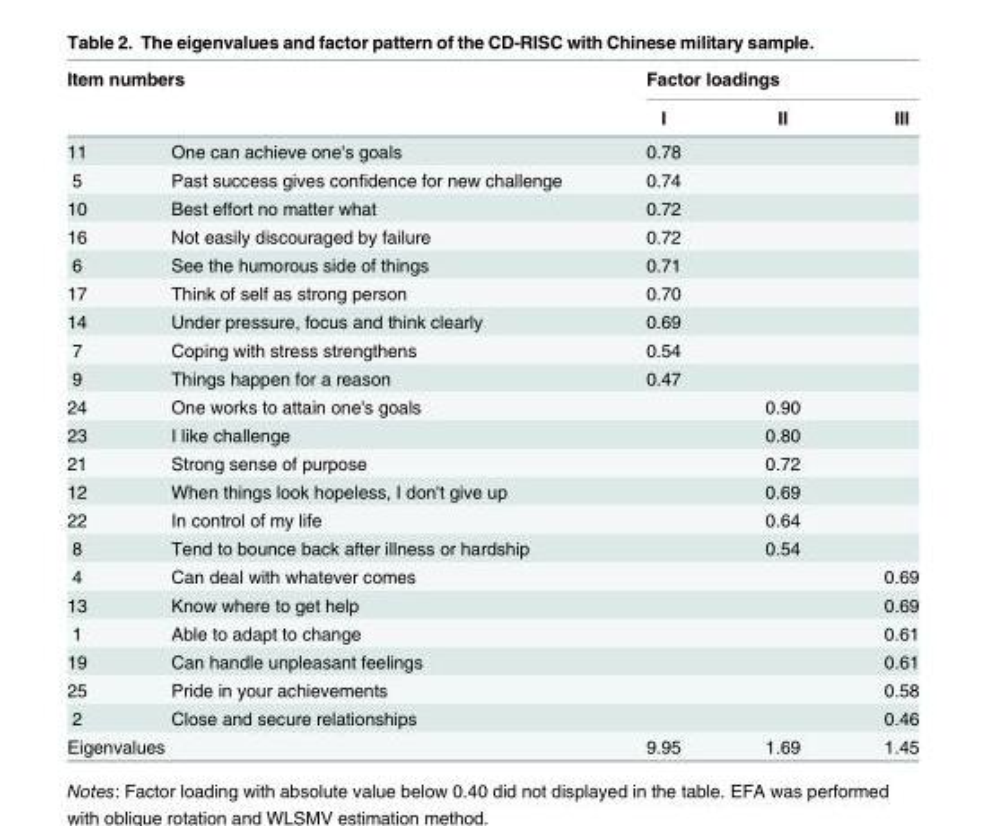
<table><thead><tr><td rowspan="2" colspan="2">Item numbers</td><td colspan="3">Factor loadings</td></tr><tr><td rowspan="2">I 0.78</td><td rowspan="2">II</td><td rowspan="2">III</td></tr><tr><td>11</td><td>One can achieve one&#x27;s goals</td></tr></thead><tbody><tr><td>5</td><td>Past success gives confidence for new challenge</td><td>0.74</td><td></td><td></td></tr><tr><td>10</td><td>Best effort no matter what</td><td>0.72</td><td></td><td></td></tr><tr><td>16</td><td>Not easily discouraged by failure</td><td>0.72</td><td></td><td></td></tr><tr><td>6</td><td>See the humorous side of things</td><td>0.71</td><td></td><td></td></tr><tr><td>17</td><td>Think of self as strong person</td><td>0.70</td><td></td><td></td></tr><tr><td>14</td><td>Under pressure, focus and think clearly</td><td>0.69</td><td></td><td></td></tr><tr><td>7</td><td>Coping with stress strengthens</td><td>0.54</td><td></td><td></td></tr><tr><td>9</td><td>Things happen for a reason</td><td>0.47</td><td></td><td></td></tr><tr><td>24</td><td>One works to attain one&#x27;s goals</td><td></td><td>0.90</td><td></td></tr><tr><td>23</td><td>I like challenge</td><td></td><td>0.80</td><td></td></tr><tr><td>21</td><td>Strong sense of purpose</td><td></td><td>0.72</td><td></td></tr><tr><td>12</td><td>When things look hopeless, I don&#x27;t give up</td><td></td><td>0.69</td><td></td></tr><tr><td>22</td><td>In control of my life</td><td></td><td>0.64</td><td></td></tr><tr><td>8</td><td>Tend to bounce back after illness or hardship</td><td></td><td>0.54</td><td></td></tr><tr><td>4</td><td>Can deal with whatever comes</td><td></td><td></td><td>0.69</td></tr><tr><td>13</td><td>Know where to get help</td><td></td><td></td><td>0.69</td></tr><tr><td>1</td><td>Able to adapt to change</td><td></td><td></td><td>0.61</td></tr><tr><td>19</td><td>Can handle unpleasant feelings</td><td></td><td></td><td>0.61</td></tr><tr><td>25</td><td>Pride in your achievements</td><td></td><td></td><td>0.58</td></tr><tr><td>2</td><td>Close and secure relationships</td><td></td><td></td><td>0.46</td></tr><tr><td colspan="2">Eigenvalues</td><td>9.95</td><td>1.69</td><td>1.45</td></tr></tbody></table>